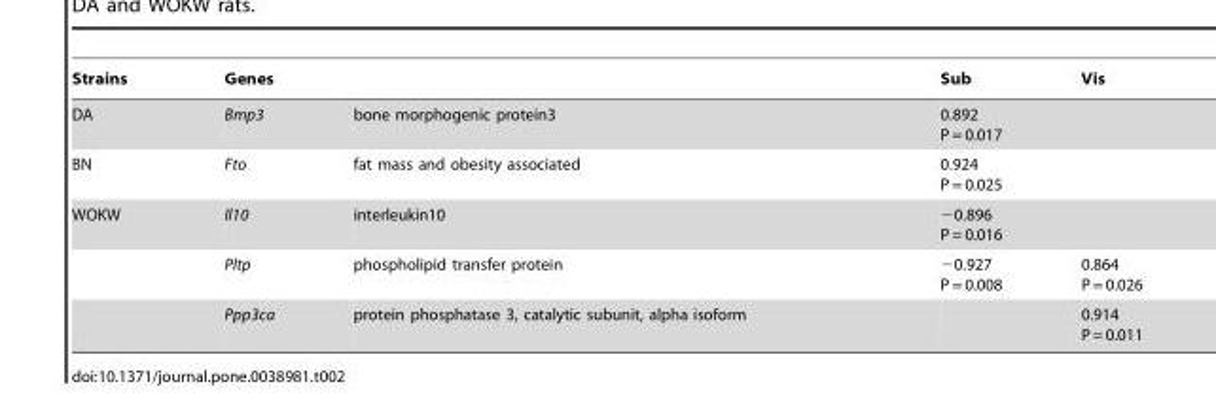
<table><thead><tr><td rowspan="2">Strains DA</td><td colspan="2">Genes</td><td rowspan="2">Sub 0.892 P = 0.017</td><td rowspan="2">Vis</td></tr><tr><td>Bmp3</td><td>bone morphogenic protein3</td></tr></thead><tbody><tr><td>BN</td><td>Fto</td><td>fat mass and obesity associated</td><td>0.924 P = 0.025</td><td></td></tr><tr><td rowspan="3">WOKW</td><td>Il10</td><td>interleukin10</td><td>−0.896 P = 0.016</td><td></td></tr><tr><td>Pltp</td><td>phospholipid transfer protein</td><td>−0.927 P = 0.008</td><td>0.864 P = 0.026</td></tr><tr><td>Ppp3ca</td><td>protein phosphatase 3, catalytic subunit, alpha isoform</td><td></td><td>0.914 P = 0.011</td></tr></tbody></table>